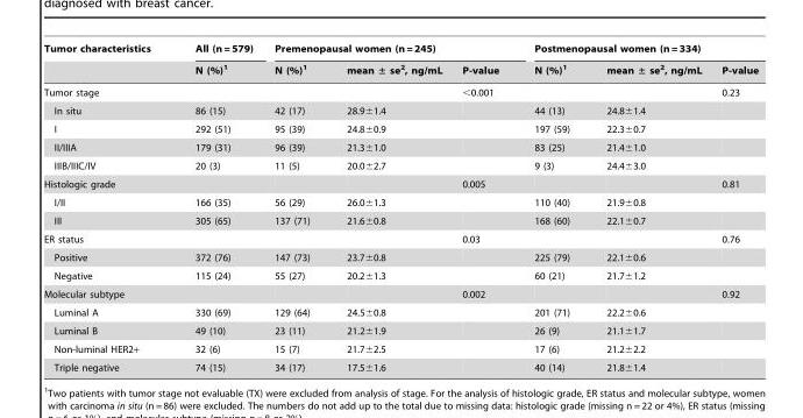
<table><thead><tr><td rowspan="2">Tumor characteristics</td><td rowspan="2">All (n = 579) N (%)<sup>1</sup></td><td colspan="3">Premenopausal women (n = 245)</td><td colspan="3">Postmenopausal women (n = 334)</td></tr><tr><td>N (%)<sup>1</sup></td><td>mean ± se<sup>2</sup>, ng/mL</td><td>P-value</td><td>N (%)<sup>1</sup></td><td>mean ± se<sup>2</sup>, ng/mL</td><td>P-value</td></tr></thead><tbody><tr><td>Tumor stage</td><td></td><td></td><td></td><td>&lt;0.001</td><td></td><td></td><td>0.23</td></tr><tr><td>In situ</td><td>86 (15)</td><td>42 (17)</td><td>28.9±1.4</td><td></td><td>44 (13)</td><td>24.8±1.4</td><td></td></tr><tr><td>I</td><td>292 (51)</td><td>95 (39)</td><td>24.8±0.9</td><td></td><td>197 (59)</td><td>22.3±0.7</td><td></td></tr><tr><td>II/IIIA</td><td>179 (31)</td><td>96 (39)</td><td>21.3±1.0</td><td></td><td>83 (25)</td><td>21.4±1.0</td><td></td></tr><tr><td>IIIB/IIIC/IV</td><td>20 (3)</td><td>11 (5)</td><td>20.0±2.7</td><td></td><td>9 (3)</td><td>24.4±3.0</td><td></td></tr><tr><td>Histologic grade</td><td></td><td></td><td></td><td>0.005</td><td></td><td></td><td>0.81</td></tr><tr><td>I/II</td><td>166 (35)</td><td>56 (29)</td><td>26.0±1.3</td><td></td><td>110 (40)</td><td>21.9±0.8</td><td></td></tr><tr><td>III</td><td>305 (65)</td><td>137 (71)</td><td>21.6±0.8</td><td></td><td>168 (60)</td><td>22.1±0.7</td><td></td></tr><tr><td>ER status</td><td></td><td></td><td></td><td>0.03</td><td></td><td></td><td>0.76</td></tr><tr><td>Positive</td><td>372 (76)</td><td>147 (73)</td><td>23.7±0.8</td><td></td><td>225 (79)</td><td>22.1±0.6</td><td></td></tr><tr><td>Negative</td><td>115 (24)</td><td>55 (27)</td><td>20.2±1.3</td><td></td><td>60 (21)</td><td>21.7±1.2</td><td></td></tr><tr><td>Molecular subtype</td><td></td><td></td><td></td><td>0.002</td><td></td><td></td><td>0.92</td></tr><tr><td>Luminal A</td><td>330 (69)</td><td>129 (64)</td><td>24.5±0.8</td><td></td><td>201 (71)</td><td>22.2±0.6</td><td></td></tr><tr><td>Luminal B</td><td>49 (10)</td><td>23 (11)</td><td>21.2±1.9</td><td></td><td>26 (9)</td><td>21.1±1.7</td><td></td></tr><tr><td>Non-luminal HER2+</td><td>32 (6)</td><td>15 (7)</td><td>21.7±2.5</td><td></td><td>17 (6)</td><td>21.2±2.2</td><td></td></tr><tr><td>Triple negative</td><td>74 (15)</td><td>34 (17)</td><td>17.5±1.6</td><td></td><td>40 (14)</td><td>21.8±1.4</td><td></td></tr></tbody></table>